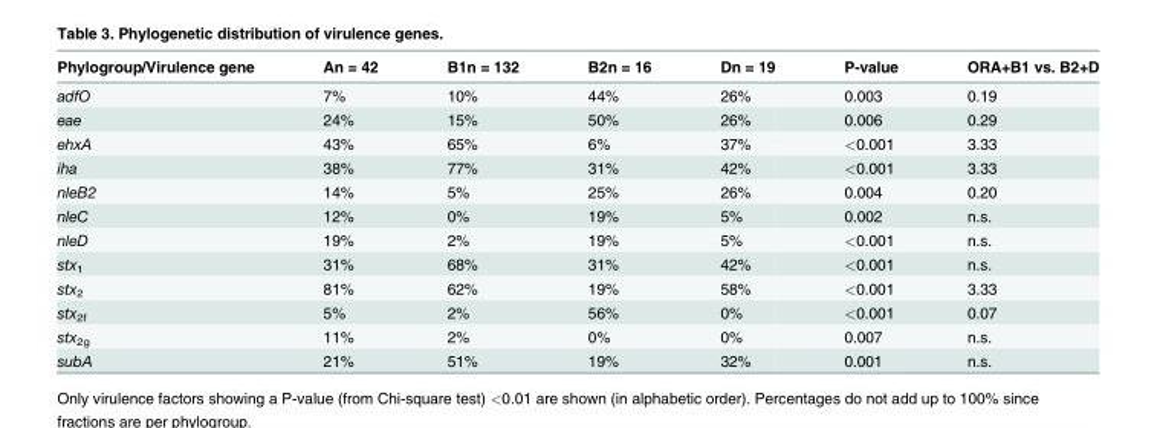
<table><thead><tr><td>Phylogroup/Virulence gene</td><td>An = 42</td><td>B1n = 132</td><td>B2n = 16</td><td>Dn = 19</td><td>P-value</td><td>ORA+B1 vs. B2+D</td></tr></thead><tbody><tr><td>adfO</td><td>7%</td><td>10%</td><td>44%</td><td>26%</td><td>0.003</td><td>0.19</td></tr><tr><td>eae</td><td>24%</td><td>15%</td><td>50%</td><td>26%</td><td>0.006</td><td>0.29</td></tr><tr><td>ehxA</td><td>43%</td><td>65%</td><td>6%</td><td>37%</td><td>&lt;0.001</td><td>3.33</td></tr><tr><td>iha</td><td>38%</td><td>77%</td><td>31%</td><td>42%</td><td>&lt;0.001</td><td>3.33</td></tr><tr><td>nleB2</td><td>14%</td><td>5%</td><td>25%</td><td>26%</td><td>0.004</td><td>0.20</td></tr><tr><td>nleC</td><td>12%</td><td>0%</td><td>19%</td><td>5%</td><td>0.002</td><td>n.s.</td></tr><tr><td>nleD</td><td>19%</td><td>2%</td><td>19%</td><td>5%</td><td>&lt;0.001</td><td>n.s.</td></tr><tr><td>stx<sub>1</sub></td><td>31%</td><td>68%</td><td>31%</td><td>42%</td><td>&lt;0.001</td><td>n.s.</td></tr><tr><td>stx<sub>2</sub></td><td>81%</td><td>62%</td><td>19%</td><td>58%</td><td>&lt;0.001</td><td>3.33</td></tr><tr><td>stx<sub>2f</sub></td><td>5%</td><td>2%</td><td>56%</td><td>0%</td><td>&lt;0.001</td><td>0.07</td></tr><tr><td>stx<sub>2g</sub></td><td>11%</td><td>2%</td><td>0%</td><td>0%</td><td>0.007</td><td>n.s.</td></tr><tr><td>subA</td><td>21%</td><td>51%</td><td>19%</td><td>32%</td><td>0.001</td><td>n.s.</td></tr></tbody></table>